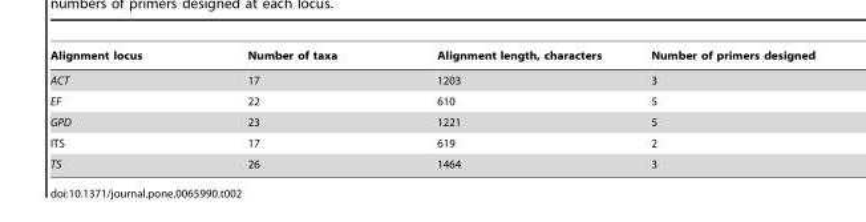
<table><thead><tr><td>Alignment locus</td><td>Number of taxa</td><td>Alignment length, characters</td><td>Number of primers designed</td></tr></thead><tbody><tr><td>ACT</td><td>17</td><td>1203</td><td>3</td></tr><tr><td>EF</td><td>22</td><td>610</td><td>5</td></tr><tr><td>GPD</td><td>23</td><td>1221</td><td>5</td></tr><tr><td>ITS</td><td>17</td><td>619</td><td>2</td></tr><tr><td>TS</td><td>26</td><td>1464</td><td>3</td></tr></tbody></table>